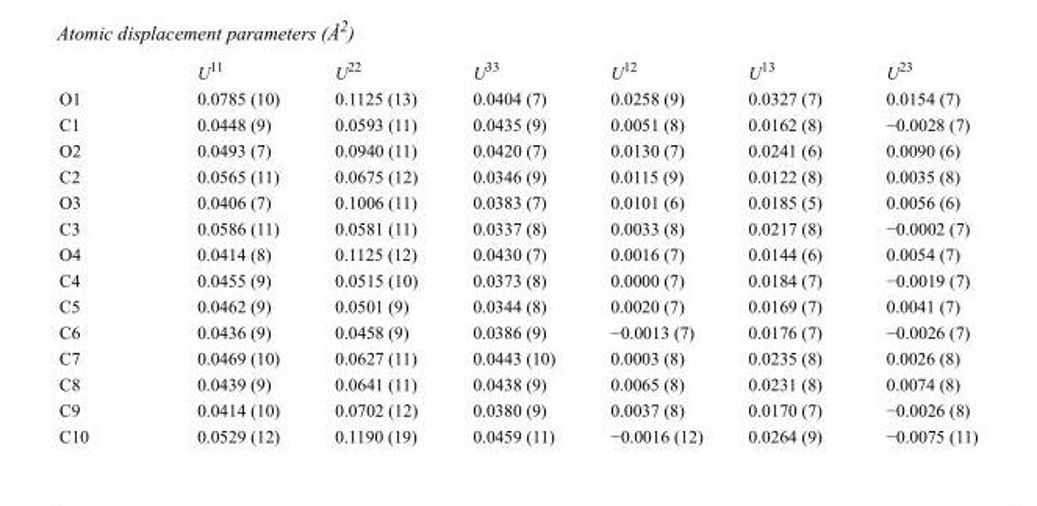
<table><thead><tr><td></td><td>U<sup>11</sup></td><td>U<sup>22</sup></td><td>U<sup>33</sup></td><td>U<sup>12</sup></td><td>U<sup>13</sup></td><td>U<sup>23</sup></td></tr></thead><tbody><tr><td>O1</td><td>0.0785 (10)</td><td>0.1125 (13)</td><td>0.0404 (7)</td><td>0.0258 (9)</td><td>0.0327 (7)</td><td>0.0154 (7)</td></tr><tr><td>C1</td><td>0.0448 (9)</td><td>0.0593 (11)</td><td>0.0435 (9)</td><td>0.0051 (8)</td><td>0.0162 (8)</td><td>−0.0028 (7)</td></tr><tr><td>O2</td><td>0.0493 (7)</td><td>0.0940 (11)</td><td>0.0420 (7)</td><td>0.0130 (7)</td><td>0.0241 (6)</td><td>0.0090 (6)</td></tr><tr><td>C2</td><td>0.0565 (11)</td><td>0.0675 (12)</td><td>0.0346 (9)</td><td>0.0115 (9)</td><td>0.0122 (8)</td><td>0.0035 (8)</td></tr><tr><td>O3</td><td>0.0406 (7)</td><td>0.1006 (11)</td><td>0.0383 (7)</td><td>0.0101 (6)</td><td>0.0185 (5)</td><td>0.0056 (6)</td></tr><tr><td>C3</td><td>0.0586 (11)</td><td>0.0581 (11)</td><td>0.0337 (8)</td><td>0.0033 (8)</td><td>0.0217 (8)</td><td>−0.0002 (7)</td></tr><tr><td>O4</td><td>0.0414 (8)</td><td>0.1125 (12)</td><td>0.0430 (7)</td><td>0.0016 (7)</td><td>0.0144 (6)</td><td>0.0054 (7)</td></tr><tr><td>C4</td><td>0.0455 (9)</td><td>0.0515 (10)</td><td>0.0373 (8)</td><td>0.0000 (7)</td><td>0.0184 (7)</td><td>−0.0019 (7)</td></tr><tr><td>C5</td><td>0.0462 (9)</td><td>0.0501 (9)</td><td>0.0344 (8)</td><td>0.0020 (7)</td><td>0.0169 (7)</td><td>0.0041 (7)</td></tr><tr><td>C6</td><td>0.0436 (9)</td><td>0.0458 (9)</td><td>0.0386 (9)</td><td>−0.0013 (7)</td><td>0.0176 (7)</td><td>−0.0026 (7)</td></tr><tr><td>C7</td><td>0.0469 (10)</td><td>0.0627 (11)</td><td>0.0443 (10)</td><td>0.0003 (8)</td><td>0.0235 (8)</td><td>0.0026 (8)</td></tr><tr><td>C8</td><td>0.0439 (9)</td><td>0.0641 (11)</td><td>0.0438 (9)</td><td>0.0065 (8)</td><td>0.0231 (8)</td><td>0.0074 (8)</td></tr><tr><td>C9</td><td>0.0414 (10)</td><td>0.0702 (12)</td><td>0.0380 (9)</td><td>0.0037 (8)</td><td>0.0170 (7)</td><td>−0.0026 (8)</td></tr><tr><td>C10</td><td>0.0529 (12)</td><td>0.1190 (19)</td><td>0.0459 (11)</td><td>−0.0016 (12)</td><td>0.0264 (9)</td><td>−0.0075 (11)</td></tr></tbody></table>